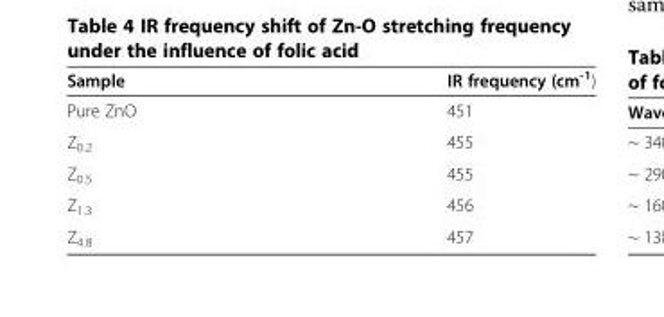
<table><thead><tr><td>Sample</td><td>IR frequency (cm<sup>-1</sup>)</td></tr></thead><tbody><tr><td>Pure ZnO</td><td>451</td></tr><tr><td>Z<sub>0.2</sub></td><td>455</td></tr><tr><td>Z<sub>0.5</sub></td><td>455</td></tr><tr><td>Z<sub>1.3</sub></td><td>456</td></tr><tr><td>Z<sub>4.8</sub></td><td>457</td></tr></tbody></table>